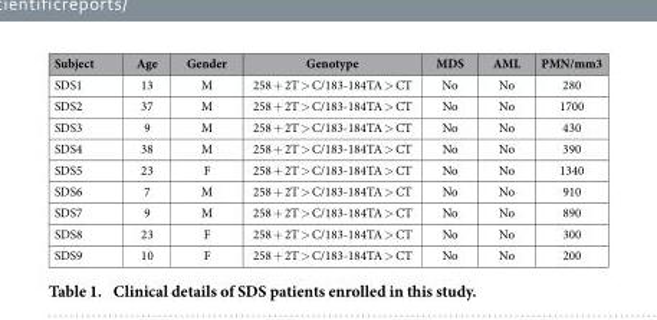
<table><thead><tr><td>Subject</td><td>Age</td><td>Gender</td><td>Genotype</td><td>MDS</td><td>AML</td><td>PMN/mm3</td></tr></thead><tbody><tr><td>SDS1</td><td>13</td><td>M</td><td>258 + 2T &gt; C/183-184TA &gt; CT</td><td>No</td><td>No</td><td>280</td></tr><tr><td>SDS2</td><td>37</td><td>M</td><td>258 + 2T &gt; C/183-184TA &gt; CT</td><td>No</td><td>No</td><td>1700</td></tr><tr><td>SDS3</td><td>9</td><td>M</td><td>258 + 2T &gt; C/183-184TA &gt; CT</td><td>No</td><td>No</td><td>430</td></tr><tr><td>SDS4</td><td>38</td><td>M</td><td>258 + 2T &gt; C/183-184TA &gt; CT</td><td>No</td><td>No</td><td>390</td></tr><tr><td>SDS5</td><td>23</td><td>F</td><td>258 + 2T &gt; C/183-184TA &gt; CT</td><td>No</td><td>No</td><td>1340</td></tr><tr><td>SDS6</td><td>7</td><td>M</td><td>258 + 2T &gt; C/183-184TA &gt; CT</td><td>No</td><td>No</td><td>910</td></tr><tr><td>SDS7</td><td>9</td><td>M</td><td>258 + 2T &gt; C/183-184TA &gt; CT</td><td>No</td><td>No</td><td>890</td></tr><tr><td>SDS8</td><td>23</td><td>F</td><td>258 + 2T &gt; C/183-184TA &gt; CT</td><td>No</td><td>No</td><td>300</td></tr><tr><td>SDS9</td><td>10</td><td>F</td><td>258 + 2T &gt; C/183-184TA &gt; CT</td><td>No</td><td>No</td><td>200</td></tr></tbody></table>